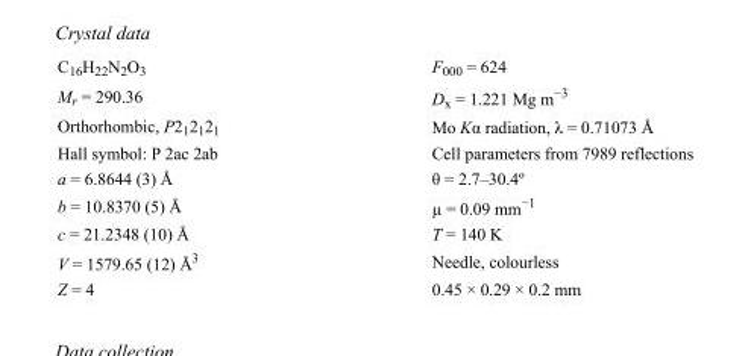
<table><tbody><tr><td>C<sub>16</sub>H<sub>22</sub>N<sub>2</sub>O<sub>3</sub></td><td>F000 = 624</td></tr><tr><td>M<sub>r</sub> = 290.36</td><td>D<sub>x</sub> = 1.221 Mg m<sup>−3</sup></td></tr><tr><td>Orthorhombic, P2<sub>1</sub>2<sub>1</sub>2<sub>1</sub></td><td>Mo Kα radiation, λ = 0.71073 Å</td></tr><tr><td>Hall symbol: P 2ac 2ab</td><td>Cell parameters from 7989 reflections</td></tr><tr><td>a = 6.8644 (3) Å</td><td>θ = 2.7–30.4º</td></tr><tr><td>b = 10.8370 (5) Å</td><td>µ = 0.09 mm<sup>−1</sup></td></tr><tr><td>c = 21.2348 (10) Å</td><td>T = 140 K</td></tr><tr><td>V = 1579.65 (12) Å<sup>3</sup></td><td>Needle, colourless</td></tr><tr><td>Z = 4</td><td>0.45 × 0.29 × 0.2 mm</td></tr></tbody></table>